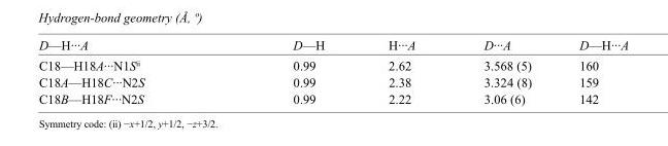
<table><tbody><tr><td>D—H···A</td><td>D—H</td><td>H···A</td><td>D···A</td><td>D—H···A</td></tr><tr><td>C18—H18A···N1S<sup>ii</sup></td><td>0.99</td><td>2.62</td><td>3.568 (5)</td><td>160</td></tr><tr><td>C18A—H18C···N2S</td><td>0.99</td><td>2.38</td><td>3.324 (8)</td><td>159</td></tr><tr><td>C18B—H18F···N2S</td><td>0.99</td><td>2.22</td><td>3.06 (6)</td><td>142</td></tr></tbody></table>